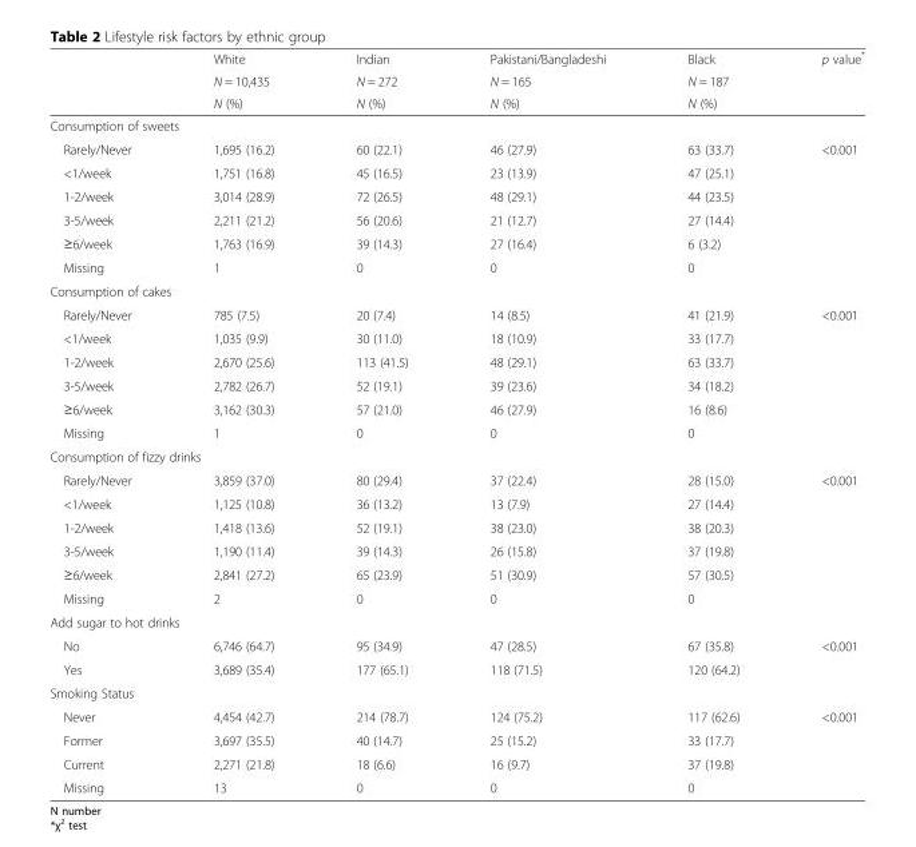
<table><thead><tr><td rowspan="3"></td><td rowspan="3">White N = 10,435 N (%)</td><td rowspan="3">Indian N = 272 N (%)</td><td rowspan="3">Pakistani/Bangladeshi N = 165 N (%)</td><td rowspan="3">Black N = 187 N (%)</td><td rowspan="3">p value*</td></tr><tr></tr><tr></tr></thead><tbody><tr><td colspan="6">Consumption of sweets</td></tr><tr><td>Rarely/Never</td><td>1,695 (16.2)</td><td>60 (22.1)</td><td>46 (27.9)</td><td>63 (33.7)</td><td>&lt;0.001</td></tr><tr><td>&lt;1/week</td><td>1,751 (16.8)</td><td>45 (16.5)</td><td>23 (13.9)</td><td>47 (25.1)</td><td></td></tr><tr><td>1-2/week</td><td>3,014 (28.9)</td><td>72 (26.5)</td><td>48 (29.1)</td><td>44 (23.5)</td><td></td></tr><tr><td>3-5/week</td><td>2,211 (21.2)</td><td>56 (20.6)</td><td>21 (12.7)</td><td>27 (14.4)</td><td></td></tr><tr><td>≥6/week</td><td>1,763 (16.9)</td><td>39 (14.3)</td><td>27 (16.4)</td><td>6 (3.2)</td><td></td></tr><tr><td>Missing</td><td>1</td><td>0</td><td>0</td><td>0</td><td></td></tr><tr><td colspan="6">Consumption of cakes</td></tr><tr><td>Rarely/Never</td><td>785 (7.5)</td><td>20 (7.4)</td><td>14 (8.5)</td><td>41 (21.9)</td><td>&lt;0.001</td></tr><tr><td>&lt;1/week</td><td>1,035 (9.9)</td><td>30 (11.0)</td><td>18 (10.9)</td><td>33 (17.7)</td><td></td></tr><tr><td>1-2/week</td><td>2,670 (25.6)</td><td>113 (41.5)</td><td>48 (29.1)</td><td>63 (33.7)</td><td></td></tr><tr><td>3-5/week</td><td>2,782 (26.7)</td><td>52 (19.1)</td><td>39 (23.6)</td><td>34 (18.2)</td><td></td></tr><tr><td>≥6/week</td><td>3,162 (30.3)</td><td>57 (21.0)</td><td>46 (27.9)</td><td>16 (8.6)</td><td></td></tr><tr><td>Missing</td><td>1</td><td>0</td><td>0</td><td>0</td><td></td></tr><tr><td colspan="6">Consumption of fizzy drinks</td></tr><tr><td>Rarely/Never</td><td>3,859 (37.0)</td><td>80 (29.4)</td><td>37 (22.4)</td><td>28 (15.0)</td><td>&lt;0.001</td></tr><tr><td>&lt;1/week</td><td>1,125 (10.8)</td><td>36 (13.2)</td><td>13 (7.9)</td><td>27 (14.4)</td><td></td></tr><tr><td>1-2/week</td><td>1,418 (13.6)</td><td>52 (19.1)</td><td>38 (23.0)</td><td>38 (20.3)</td><td></td></tr><tr><td>3-5/week</td><td>1,190 (11.4)</td><td>39 (14.3)</td><td>26 (15.8)</td><td>37 (19.8)</td><td></td></tr><tr><td>≥6/week</td><td>2,841 (27.2)</td><td>65 (23.9)</td><td>51 (30.9)</td><td>57 (30.5)</td><td></td></tr><tr><td>Missing</td><td>2</td><td>0</td><td>0</td><td>0</td><td></td></tr><tr><td colspan="6">Add sugar to hot drinks</td></tr><tr><td>No</td><td>6,746 (64.7)</td><td>95 (34.9)</td><td>47 (28.5)</td><td>67 (35.8)</td><td>&lt;0.001</td></tr><tr><td>Yes</td><td>3,689 (35.4)</td><td>177 (65.1)</td><td>118 (71.5)</td><td>120 (64.2)</td><td></td></tr><tr><td colspan="6">Smoking Status</td></tr><tr><td>Never</td><td>4,454 (42.7)</td><td>214 (78.7)</td><td>124 (75.2)</td><td>117 (62.6)</td><td>&lt;0.001</td></tr><tr><td>Former</td><td>3,697 (35.5)</td><td>40 (14.7)</td><td>25 (15.2)</td><td>33 (17.7)</td><td></td></tr><tr><td>Current</td><td>2,271 (21.8)</td><td>18 (6.6)</td><td>16 (9.7)</td><td>37 (19.8)</td><td></td></tr><tr><td>Missing</td><td>13</td><td>0</td><td>0</td><td>0</td><td></td></tr></tbody></table>